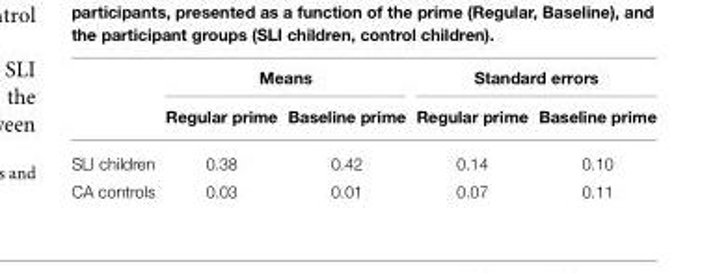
<table><thead><tr><td rowspan="2"></td><td colspan="2">Means</td><td colspan="2">Standard errors</td></tr><tr><td>Regular prime</td><td>Baseline prime</td><td>Regular prime</td><td>Baseline prime</td></tr></thead><tbody><tr><td>SLI children</td><td>0.38</td><td>0.42</td><td>0.14</td><td>0.10</td></tr><tr><td>CA controls</td><td>0.03</td><td>0.01</td><td>0.07</td><td>0.11</td></tr></tbody></table>